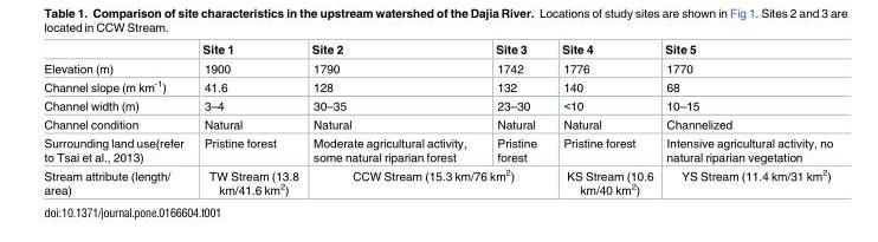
<table><thead><tr><td></td><td>Site 1</td><td>Site 2</td><td>Site 3</td><td>Site 4</td><td>Site 5</td></tr></thead><tbody><tr><td>Elevation (m)</td><td>1900</td><td>1790</td><td>1742</td><td>1776</td><td>1770</td></tr><tr><td>Channel slope (m km<sup>-1</sup>)</td><td>41.6</td><td>128</td><td>132</td><td>140</td><td>68</td></tr><tr><td>Channel width (m)</td><td>3–4</td><td>30–35</td><td>23–30</td><td>&lt;10</td><td>10–15</td></tr><tr><td>Channel condition</td><td>Natural</td><td>Natural</td><td>Natural</td><td>Natural</td><td>Channelized</td></tr><tr><td>Surrounding land use(refer to Tsai et al., 2013)</td><td>Pristine forest</td><td>Moderate agricultural activity, some natural riparian forest</td><td>Pristine forest</td><td>Pristine forest</td><td>Intensive agricultural activity, no natural riparian vegetation</td></tr><tr><td>Stream attribute (length/ area)</td><td>TW Stream (13.8 km/41.6 km<sup>2</sup>)</td><td colspan="2">CCW Stream (15.3 km/76 km<sup>2</sup>)</td><td>KS Stream (10.6 km/40 km<sup>2</sup>)</td><td>YS Stream (11.4 km/31 km<sup>2</sup>)</td></tr></tbody></table>